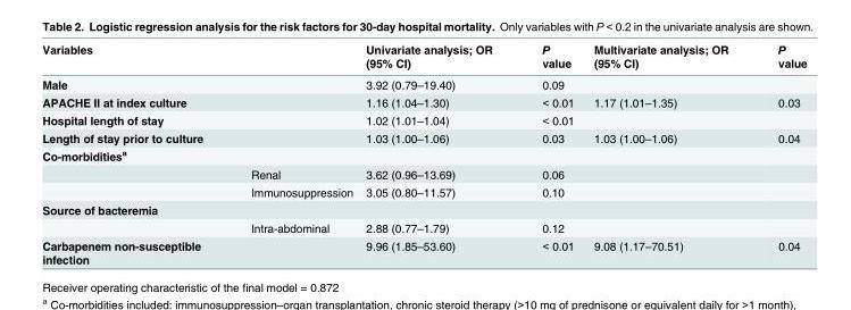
<table><thead><tr><td colspan="2">Variables</td><td rowspan="2">Univariate analysis; OR (95% CI) 3.92 (0.79–19.40)</td><td rowspan="2">P value 0.09</td><td rowspan="2">Multivariate analysis; OR (95% CI)</td><td rowspan="2">P value</td></tr><tr><td>Male</td><td></td></tr></thead><tbody><tr><td>APACHE II at index culture</td><td></td><td>1.16 (1.04–1.30)</td><td>&lt; 0.01</td><td>1.17 (1.01–1.35)</td><td>0.03</td></tr><tr><td>Hospital length of stay</td><td></td><td>1.02 (1.01–1.04)</td><td>&lt; 0.01</td><td></td><td></td></tr><tr><td>Length of stay prior to culture</td><td></td><td>1.03 (1.00–1.06)</td><td>0.03</td><td>1.03 (1.00–1.06)</td><td>0.04</td></tr><tr><td colspan="6">Co-morbidities<sup>a</sup></td></tr><tr><td></td><td>Renal</td><td>3.62 (0.96–13.69)</td><td>0.06</td><td></td><td></td></tr><tr><td></td><td>Immunosuppression</td><td>3.05 (0.80–11.57)</td><td>0.10</td><td></td><td></td></tr><tr><td colspan="6">Source of bacteremia</td></tr><tr><td></td><td>Intra-abdominal</td><td>2.88 (0.77–1.79)</td><td>0.12</td><td></td><td></td></tr><tr><td>Carbapenem non-susceptible infection</td><td></td><td>9.96 (1.85–53.60)</td><td>&lt; 0.01</td><td>9.08 (1.17–70.51)</td><td>0.04</td></tr></tbody></table>